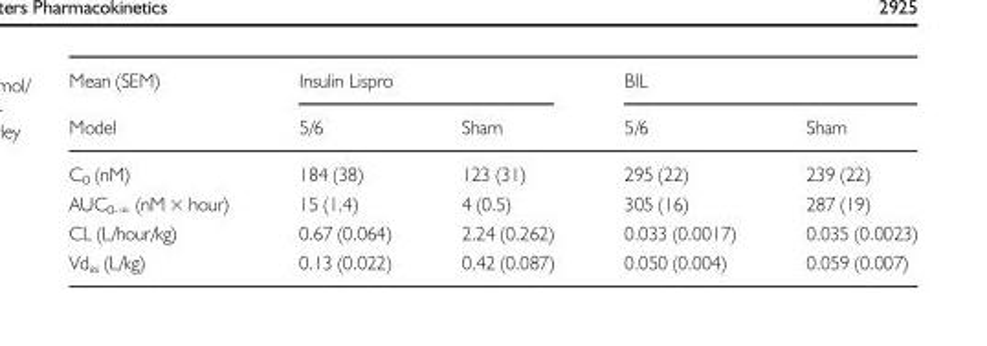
<table><thead><tr><td rowspan="2">Mean (SEM) Model</td><td colspan="2">Insulin Lispro</td><td colspan="2">BIL</td></tr><tr><td>5/6</td><td>Sham</td><td>5/6</td><td>Sham</td></tr></thead><tbody><tr><td>C<sub>0</sub> (nM)</td><td>184 (38)</td><td>123 (31)</td><td>295 (22)</td><td>239 (22)</td></tr><tr><td>AUC<sub>0-∞</sub> (nM × hour)</td><td>15 (1.4)</td><td>4 (0.5)</td><td>305 (16)</td><td>287 (19)</td></tr><tr><td>CL (L/hour/kg)</td><td>0.67 (0.064)</td><td>2.24 (0.262)</td><td>0.033 (0.0017)</td><td>0.035 (0.0023)</td></tr><tr><td>Vd<sub>ss</sub> (L/kg)</td><td>0.13 (0.022)</td><td>0.42 (0.087)</td><td>0.050 (0.004)</td><td>0.059 (0.007)</td></tr></tbody></table>